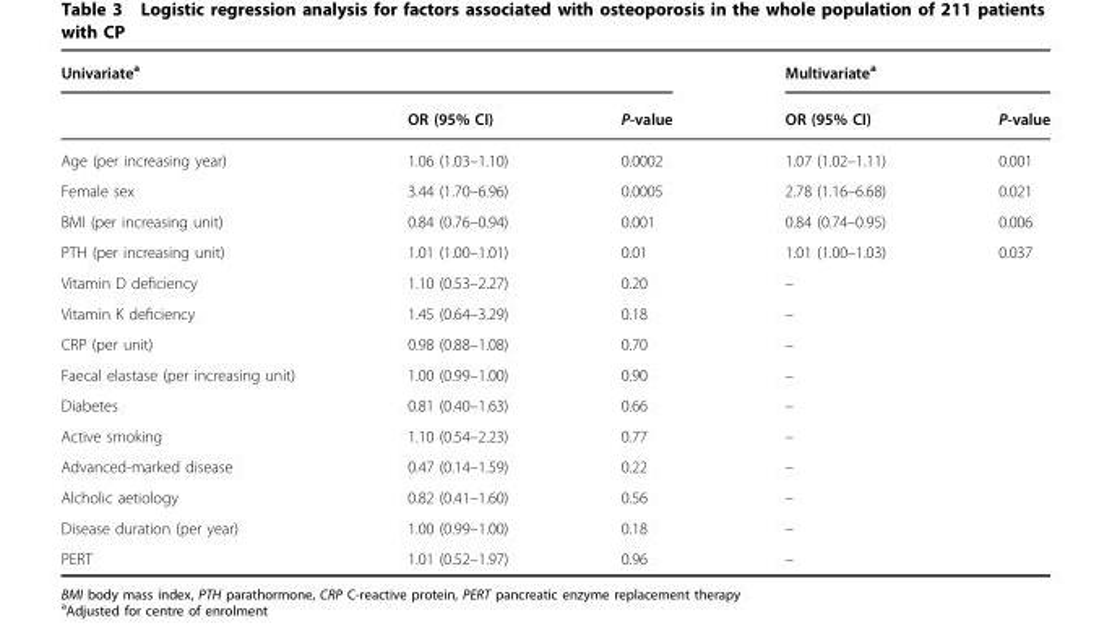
<table><thead><tr><td colspan="3">Univariate<sup>a</sup></td><td colspan="2">Multivariate<sup>a</sup></td></tr><tr><td></td><td>OR (95% CI)</td><td>P-value</td><td>OR (95% CI)</td><td>P-value</td></tr></thead><tbody><tr><td>Age (per increasing year)</td><td>1.06 (1.03–1.10)</td><td>0.0002</td><td>1.07 (1.02–1.11)</td><td>0.001</td></tr><tr><td>Female sex</td><td>3.44 (1.70–6.96)</td><td>0.0005</td><td>2.78 (1.16–6.68)</td><td>0.021</td></tr><tr><td>BMI (per increasing unit)</td><td>0.84 (0.76–0.94)</td><td>0.001</td><td>0.84 (0.74–0.95)</td><td>0.006</td></tr><tr><td>PTH (per increasing unit)</td><td>1.01 (1.00–1.01)</td><td>0.01</td><td>1.01 (1.00–1.03)</td><td>0.037</td></tr><tr><td>Vitamin D deficiency</td><td>1.10 (0.53–2.27)</td><td>0.20</td><td>–</td><td></td></tr><tr><td>Vitamin K deficiency</td><td>1.45 (0.64–3.29)</td><td>0.18</td><td>–</td><td></td></tr><tr><td>CRP (per unit)</td><td>0.98 (0.88–1.08)</td><td>0.70</td><td>–</td><td></td></tr><tr><td>Faecal elastase (per increasing unit)</td><td>1.00 (0.99–1.00)</td><td>0.90</td><td>–</td><td></td></tr><tr><td>Diabetes</td><td>0.81 (0.40–1.63)</td><td>0.66</td><td>–</td><td></td></tr><tr><td>Active smoking</td><td>1.10 (0.54–2.23)</td><td>0.77</td><td>–</td><td></td></tr><tr><td>Advanced-marked disease</td><td>0.47 (0.14–1.59)</td><td>0.22</td><td>–</td><td></td></tr><tr><td>Alcholic aetiology</td><td>0.82 (0.41–1.60)</td><td>0.56</td><td>–</td><td></td></tr><tr><td>Disease duration (per year)</td><td>1.00 (0.99–1.00)</td><td>0.18</td><td>–</td><td></td></tr><tr><td>PERT</td><td>1.01 (0.52–1.97)</td><td>0.96</td><td>–</td><td></td></tr></tbody></table>